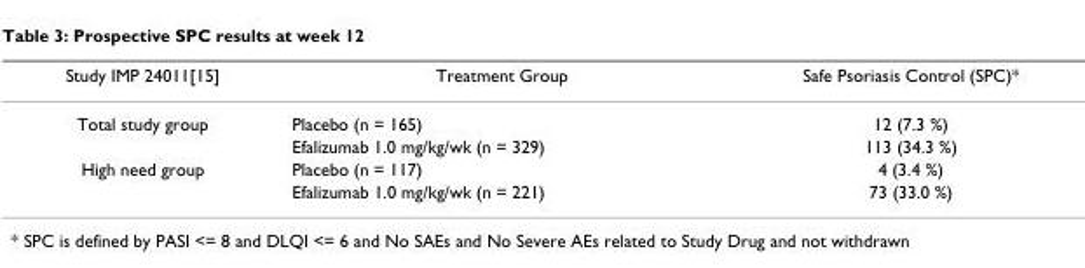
<table><thead><tr><td>Study IMP 24011[15]</td><td>Treatment Group</td><td>Safe Psoriasis Control (SPC)*</td></tr></thead><tbody><tr><td rowspan="2">Total study group</td><td>Placebo (n = 165)</td><td>12 (7.3 %)</td></tr><tr><td>Efalizumab 1.0 mg/kg/wk (n = 329)</td><td>113 (34.3 %)</td></tr><tr><td rowspan="2">High need group</td><td>Placebo (n = 117)</td><td>4 (3.4 %)</td></tr><tr><td>Efalizumab 1.0 mg/kg/wk (n = 221)</td><td>73 (33.0 %)</td></tr></tbody></table>